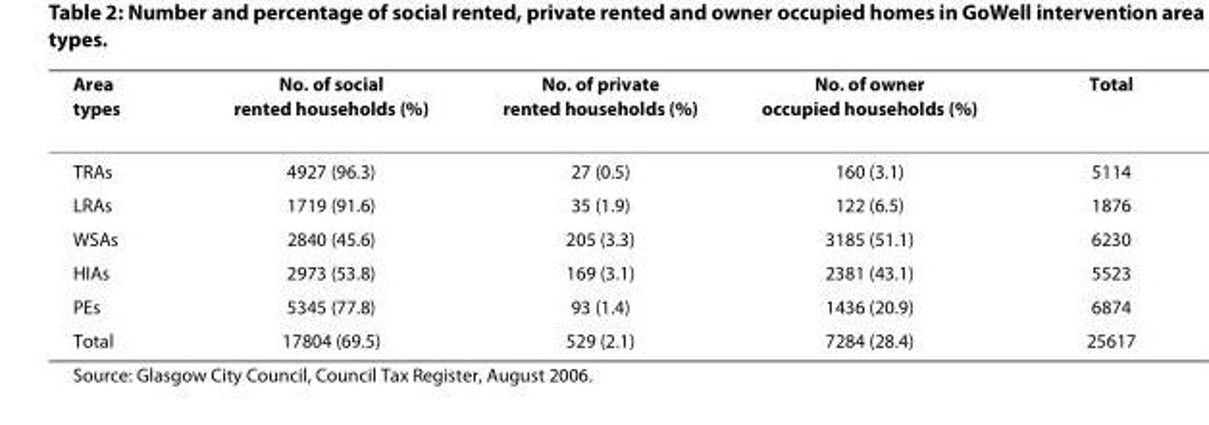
<table><thead><tr><td>Area types</td><td>No. of social rented households (%)</td><td>No. of private rented households (%)</td><td>No. of owner occupied households (%)</td><td>Total</td></tr></thead><tbody><tr><td>TRAs</td><td>4927 (96.3)</td><td>27 (0.5)</td><td>160 (3.1)</td><td>5114</td></tr><tr><td>LRAs</td><td>1719 (91.6)</td><td>35 (1.9)</td><td>122 (6.5)</td><td>1876</td></tr><tr><td>WSAs</td><td>2840 (45.6)</td><td>205 (3.3)</td><td>3185 (51.1)</td><td>6230</td></tr><tr><td>HIAs</td><td>2973 (53.8)</td><td>169 (3.1)</td><td>2381 (43.1)</td><td>5523</td></tr><tr><td>PEs</td><td>5345 (77.8)</td><td>93 (1.4)</td><td>1436 (20.9)</td><td>6874</td></tr><tr><td>Total</td><td>17804 (69.5)</td><td>529 (2.1)</td><td>7284 (28.4)</td><td>25617</td></tr></tbody></table>